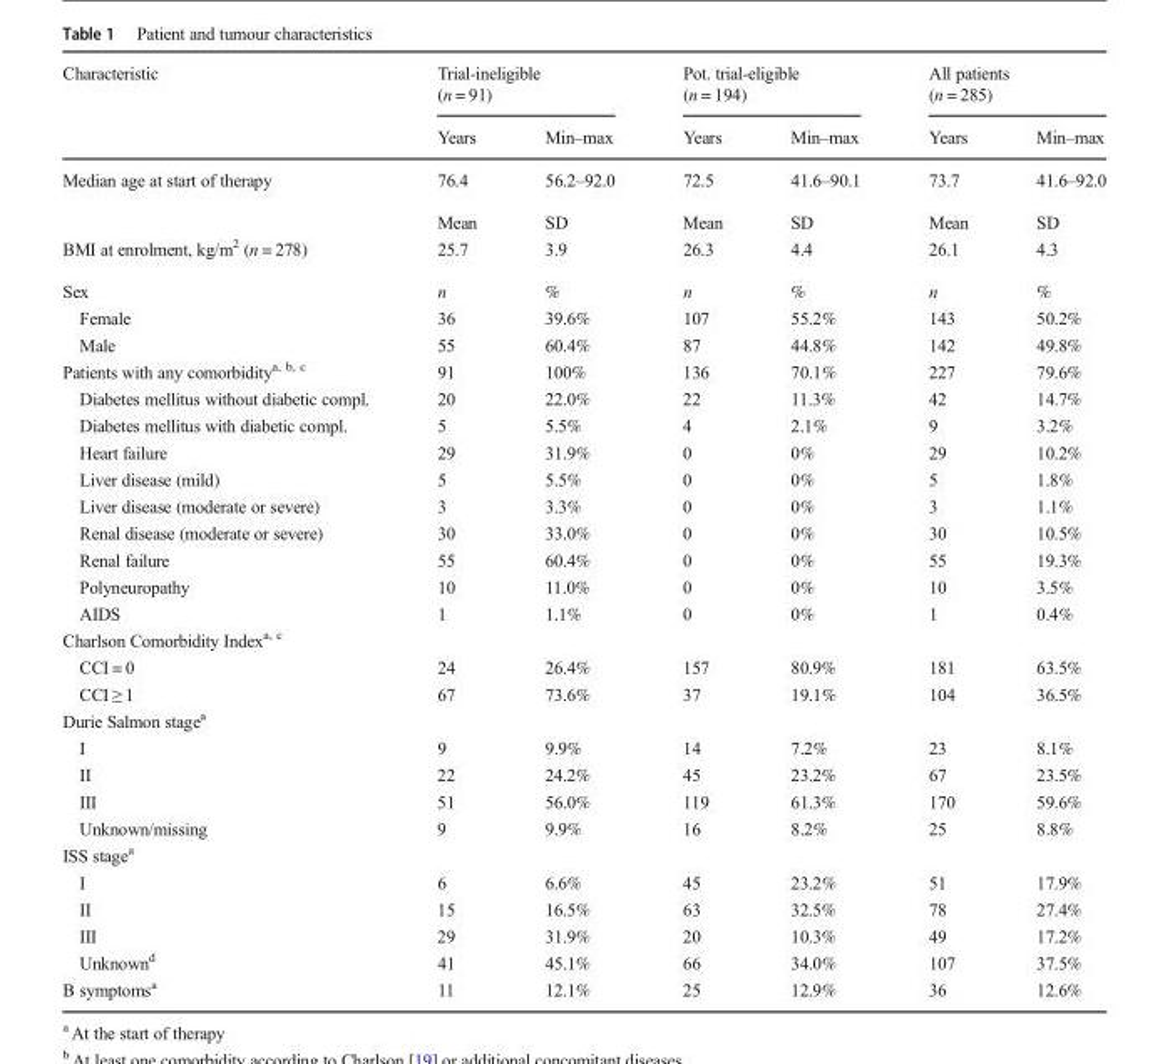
<table><thead><tr><td rowspan="2">Characteristic</td><td colspan="2">Trial-ineligible (n = 91)</td><td colspan="2">Pot. trial-eligible (n = 194)</td><td colspan="2">All patients (n = 285)</td></tr><tr><td>Years</td><td>Min–max</td><td>Years</td><td>Min–max</td><td>Years</td><td>Min–max</td></tr></thead><tbody><tr><td rowspan="2">Median age at start of therapy</td><td>76.4</td><td>56.2–92.0</td><td>72.5</td><td>41.6–90.1</td><td>73.7</td><td>41.6–92.0</td></tr><tr><td>Mean</td><td>SD</td><td>Mean</td><td>SD</td><td>Mean</td><td>SD</td></tr><tr><td>BMI at enrolment, kg/m<sup>2</sup> (n = 278)</td><td>25.7</td><td>3.9</td><td>26.3</td><td>4.4</td><td>26.1</td><td>4.3</td></tr><tr><td>Sex</td><td>n</td><td>%</td><td>n</td><td>%</td><td>n</td><td>%</td></tr><tr><td>Female</td><td>36</td><td>39.6%</td><td>107</td><td>55.2%</td><td>143</td><td>50.2%</td></tr><tr><td>Male</td><td>55</td><td>60.4%</td><td>87</td><td>44.8%</td><td>142</td><td>49.8%</td></tr><tr><td>Patients with any comorbidity<sup>a, b, c</sup></td><td>91</td><td>100%</td><td>136</td><td>70.1%</td><td>227</td><td>79.6%</td></tr><tr><td>Diabetes mellitus without diabetic compl.</td><td>20</td><td>22.0%</td><td>22</td><td>11.3%</td><td>42</td><td>14.7%</td></tr><tr><td>Diabetes mellitus with diabetic compl.</td><td>5</td><td>5.5%</td><td>4</td><td>2.1%</td><td>9</td><td>3.2%</td></tr><tr><td>Heart failure</td><td>29</td><td>31.9%</td><td>0</td><td>0%</td><td>29</td><td>10.2%</td></tr><tr><td>Liver disease (mild)</td><td>5</td><td>5.5%</td><td>0</td><td>0%</td><td>5</td><td>1.8%</td></tr><tr><td>Liver disease (moderate or severe)</td><td>3</td><td>3.3%</td><td>0</td><td>0%</td><td>3</td><td>1.1%</td></tr><tr><td>Renal disease (moderate or severe)</td><td>30</td><td>33.0%</td><td>0</td><td>0%</td><td>30</td><td>10.5%</td></tr><tr><td>Renal failure</td><td>55</td><td>60.4%</td><td>0</td><td>0%</td><td>55</td><td>19.3%</td></tr><tr><td>Polyneuropathy</td><td>10</td><td>11.0%</td><td>0</td><td>0%</td><td>10</td><td>3.5%</td></tr><tr><td>AIDS</td><td>1</td><td>1.1%</td><td>0</td><td>0%</td><td>1</td><td>0.4%</td></tr><tr><td colspan="7">Charlson Comorbidity Index<sup>a, c</sup></td></tr><tr><td>CCI = 0</td><td>24</td><td>26.4%</td><td>157</td><td>80.9%</td><td>181</td><td>63.5%</td></tr><tr><td>CCI ≥ 1</td><td>67</td><td>73.6%</td><td>37</td><td>19.1%</td><td>104</td><td>36.5%</td></tr><tr><td colspan="7">Durie Salmon stage<sup>a</sup></td></tr><tr><td>I</td><td>9</td><td>9.9%</td><td>14</td><td>7.2%</td><td>23</td><td>8.1%</td></tr><tr><td>II</td><td>22</td><td>24.2%</td><td>45</td><td>23.2%</td><td>67</td><td>23.5%</td></tr><tr><td>III</td><td>51</td><td>56.0%</td><td>119</td><td>61.3%</td><td>170</td><td>59.6%</td></tr><tr><td>Unknown/missing</td><td>9</td><td>9.9%</td><td>16</td><td>8.2%</td><td>25</td><td>8.8%</td></tr><tr><td colspan="7">ISS stage<sup>a</sup></td></tr><tr><td>I</td><td>6</td><td>6.6%</td><td>45</td><td>23.2%</td><td>51</td><td>17.9%</td></tr><tr><td>II</td><td>15</td><td>16.5%</td><td>63</td><td>32.5%</td><td>78</td><td>27.4%</td></tr><tr><td>III</td><td>29</td><td>31.9%</td><td>20</td><td>10.3%</td><td>49</td><td>17.2%</td></tr><tr><td>Unknown<sup>d</sup></td><td>41</td><td>45.1%</td><td>66</td><td>34.0%</td><td>107</td><td>37.5%</td></tr><tr><td>B symptoms<sup>a</sup></td><td>11</td><td>12.1%</td><td>25</td><td>12.9%</td><td>36</td><td>12.6%</td></tr></tbody></table>